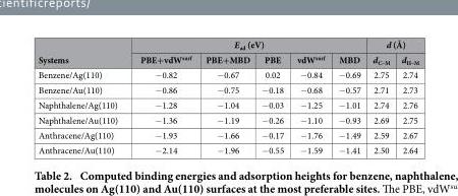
<table><thead><tr><td rowspan="2">Systems</td><td colspan="5">E<sub>ad</sub> (eV)</td><td colspan="2">d (Å)</td></tr><tr><td>PBE+vdW<sup>surf</sup></td><td>PBE+MBD</td><td>PBE</td><td>vdW<sup>surf</sup></td><td>MBD</td><td>d<sub>C–M</sub></td><td>d<sub>H–M</sub></td></tr></thead><tbody><tr><td>Benzene/Ag(110)</td><td>− 0.82</td><td>− 0.67</td><td>0.02</td><td>− 0.84</td><td>− 0.69</td><td>2.75</td><td>2.74</td></tr><tr><td>Benzene/Au(110)</td><td>− 0.86</td><td>− 0.75</td><td>− 0.18</td><td>− 0.68</td><td>− 0.57</td><td>2.71</td><td>2.73</td></tr><tr><td>Naphthalene/Ag(110)</td><td>− 1.28</td><td>− 1.04</td><td>− 0.03</td><td>− 1.25</td><td>− 1.01</td><td>2.74</td><td>2.76</td></tr><tr><td>Naphthalene/Au(110)</td><td>− 1.36</td><td>− 1.19</td><td>− 0.26</td><td>− 1.10</td><td>− 0.93</td><td>2.69</td><td>2.75</td></tr><tr><td>Anthracene/Ag(110)</td><td>− 1.93</td><td>− 1.66</td><td>− 0.17</td><td>− 1.76</td><td>− 1.49</td><td>2.59</td><td>2.67</td></tr><tr><td>Anthracene/Au(110)</td><td>− 2.14</td><td>− 1.96</td><td>− 0.55</td><td>− 1.59</td><td>− 1.41</td><td>2.50</td><td>2.64</td></tr></tbody></table>